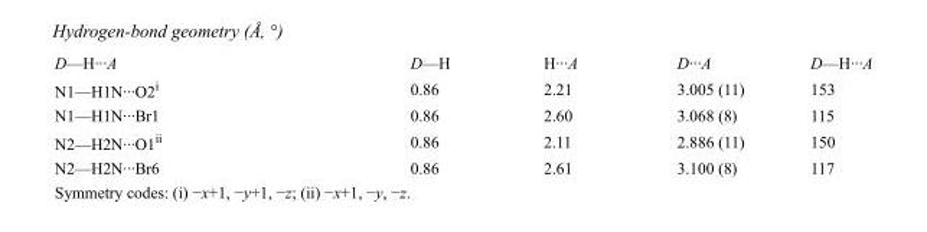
<table><tbody><tr><td>D—H···A</td><td>D—H</td><td>H···A</td><td>D···A</td><td>D—H···A</td></tr><tr><td>N1—H1N···O2<sup>i</sup></td><td>0.86</td><td>2.21</td><td>3.005 (11)</td><td>153</td></tr><tr><td>N1—H1N···Br1</td><td>0.86</td><td>2.60</td><td>3.068 (8)</td><td>115</td></tr><tr><td>N2—H2N···O1<sup>ii</sup></td><td>0.86</td><td>2.11</td><td>2.886 (11)</td><td>150</td></tr><tr><td>N2—H2N···Br6</td><td>0.86</td><td>2.61</td><td>3.100 (8)</td><td>117</td></tr></tbody></table>